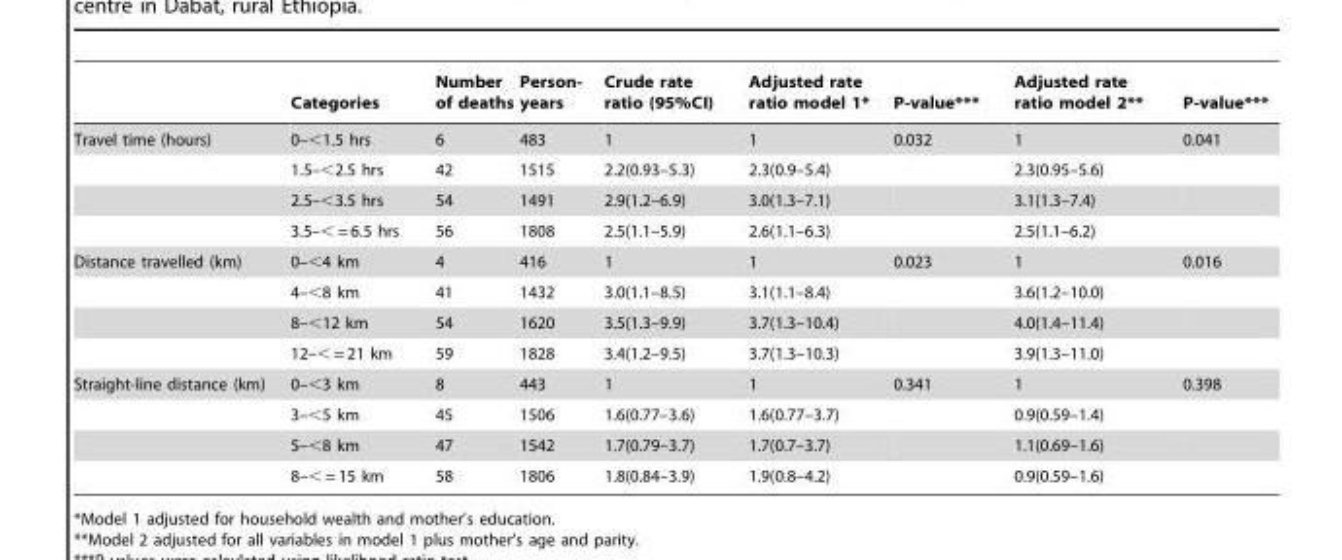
<table><thead><tr><td></td><td>Categories</td><td>Number of deaths</td><td>Person- years</td><td>Crude rate ratio (95%CI)</td><td>Adjusted rate ratio model 1*</td><td>P-value***</td><td>Adjusted rate ratio model 2**</td><td>P-value***</td></tr></thead><tbody><tr><td rowspan="4">Travel time (hours)</td><td>0–&lt;1.5 hrs</td><td>6</td><td>483</td><td>1</td><td>1</td><td>0.032</td><td>1</td><td>0.041</td></tr><tr><td>1.5–&lt;2.5 hrs</td><td>42</td><td>1515</td><td>2.2(0.93–5.3)</td><td>2.3(0.9–5.4)</td><td></td><td>2.3(0.95–5.6)</td><td></td></tr><tr><td>2.5–&lt;3.5 hrs</td><td>54</td><td>1491</td><td>2.9(1.2–6.9)</td><td>3.0(1.3–7.1)</td><td></td><td>3.1(1.3–7.4)</td><td></td></tr><tr><td>3.5–&lt; = 6.5 hrs</td><td>56</td><td>1808</td><td>2.5(1.1–5.9)</td><td>2.6(1.1–6.3)</td><td></td><td>2.5(1.1–6.2)</td><td></td></tr><tr><td rowspan="4">Distance travelled (km)</td><td>0–&lt;4 km</td><td>4</td><td>416</td><td>1</td><td>1</td><td>0.023</td><td>1</td><td>0.016</td></tr><tr><td>4–&lt;8 km</td><td>41</td><td>1432</td><td>3.0(1.1–8.5)</td><td>3.1(1.1–8.4)</td><td></td><td>3.6(1.2–10.0)</td><td></td></tr><tr><td>8–&lt;12 km</td><td>54</td><td>1620</td><td>3.5(1.3–9.9)</td><td>3.7(1.3–10.4)</td><td></td><td>4.0(1.4–11.4)</td><td></td></tr><tr><td>12–&lt; = 21 km</td><td>59</td><td>1828</td><td>3.4(1.2–9.5)</td><td>3.7(1.3–10.3)</td><td></td><td>3.9(1.3–11.0)</td><td></td></tr><tr><td rowspan="4">Straight-line distance (km)</td><td>0–&lt;3 km</td><td>8</td><td>443</td><td>1</td><td>1</td><td>0.341</td><td>1</td><td>0.398</td></tr><tr><td>3–&lt;5 km</td><td>45</td><td>1506</td><td>1.6(0.77–3.6)</td><td>1.6(0.77–3.7)</td><td></td><td>0.9(0.59–1.4)</td><td></td></tr><tr><td>5–&lt;8 km</td><td>47</td><td>1542</td><td>1.7(0.79–3.7)</td><td>1.7(0.7–3.7)</td><td></td><td>1.1(0.69–1.6)</td><td></td></tr><tr><td>8–&lt; = 15 km</td><td>58</td><td>1806</td><td>1.8(0.84–3.9)</td><td>1.9(0.8–4.2)</td><td></td><td>0.9(0.59–1.6)</td><td></td></tr></tbody></table>